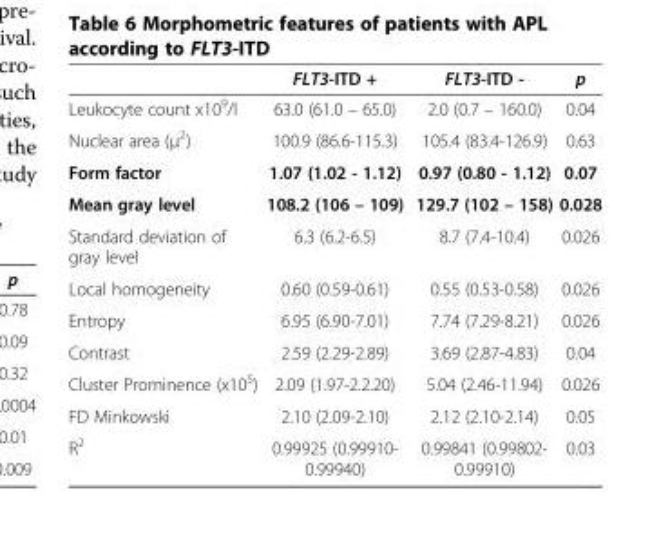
<table><thead><tr><td></td><td>FLT3-ITD +</td><td>FLT3-ITD -</td><td>p</td></tr></thead><tbody><tr><td>Leukocyte count x10<sup>9</sup>/l</td><td>63.0 (61.0 – 65.0)</td><td>2.0 (0.7 – 160.0)</td><td>0.04</td></tr><tr><td>Nuclear area (μ<sup>2</sup>)</td><td>100.9 (86.6-115.3)</td><td>105.4 (83.4-126.9)</td><td>0.63</td></tr><tr><td>Form factor</td><td>1.07 (1.02 - 1.12)</td><td>0.97 (0.80 - 1.12)</td><td>0.07</td></tr><tr><td>Mean gray level</td><td>108.2 (106 – 109)</td><td>129.7 (102 – 158)</td><td>0.028</td></tr><tr><td>Standard deviation of gray level</td><td>6.3 (6.2-6.5)</td><td>8.7 (7.4-10.4)</td><td>0.026</td></tr><tr><td>Local homogeneity</td><td>0.60 (0.59-0.61)</td><td>0.55 (0.53-0.58)</td><td>0.026</td></tr><tr><td>Entropy</td><td>6.95 (6.90-7.01)</td><td>7.74 (7.29-8.21)</td><td>0.026</td></tr><tr><td>Contrast</td><td>2.59 (2.29-2.89)</td><td>3.69 (2.87-4.83)</td><td>0.04</td></tr><tr><td>Cluster Prominence (x10<sup>5</sup>)</td><td>2.09 (1.97-2.2.20)</td><td>5.04 (2.46-11.94)</td><td>0.026</td></tr><tr><td>FD Minkowski</td><td>2.10 (2.09-2.10)</td><td>2.12 (2.10-2.14)</td><td>0.05</td></tr><tr><td>R<sup>2</sup></td><td>0.99925 (0.99910- 0.99940)</td><td>0.99841 (0.99802- 0.99910)</td><td>0.03</td></tr></tbody></table>